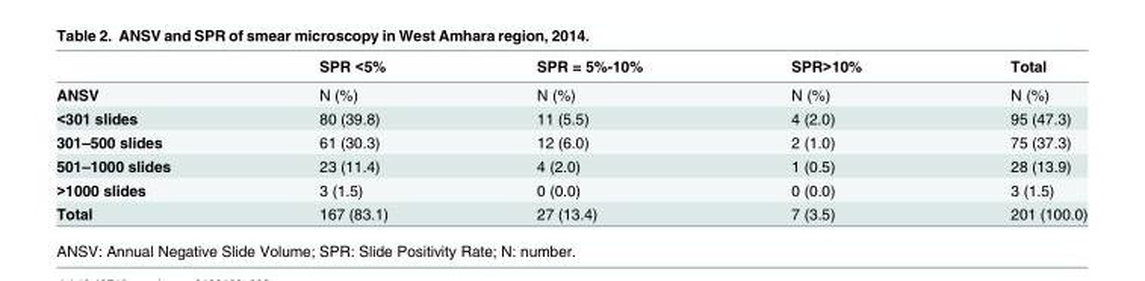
<table><thead><tr><td></td><td>SPR &lt;5%</td><td>SPR = 5%-10%</td><td>SPR&gt;10%</td><td>Total</td></tr></thead><tbody><tr><td>ANSV</td><td>N (%)</td><td>N (%)</td><td>N (%)</td><td>N (%)</td></tr><tr><td>&lt;301 slides</td><td>80 (39.8)</td><td>11 (5.5)</td><td>4 (2.0)</td><td>95 (47.3)</td></tr><tr><td>301–500 slides</td><td>61 (30.3)</td><td>12 (6.0)</td><td>2 (1.0)</td><td>75 (37.3)</td></tr><tr><td>501–1000 slides</td><td>23 (11.4)</td><td>4 (2.0)</td><td>1 (0.5)</td><td>28 (13.9)</td></tr><tr><td>&gt;1000 slides</td><td>3 (1.5)</td><td>0 (0.0)</td><td>0 (0.0)</td><td>3 (1.5)</td></tr><tr><td>Total</td><td>167 (83.1)</td><td>27 (13.4)</td><td>7 (3.5)</td><td>201 (100.0)</td></tr></tbody></table>